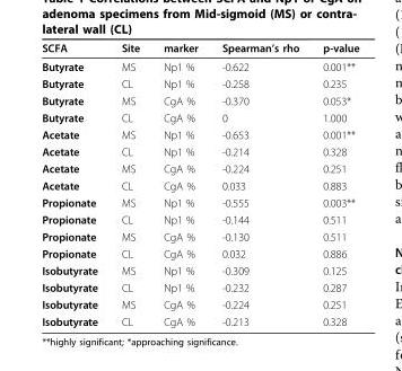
<table><thead><tr><td>SCFA</td><td>Site</td><td>marker</td><td>Spearman’s rho</td><td>p-value</td></tr></thead><tbody><tr><td>Butyrate</td><td>MS</td><td>Np1 %</td><td>-0.622</td><td>0.001**</td></tr><tr><td>Butyrate</td><td>CL</td><td>Np1 %</td><td>-0.258</td><td>0.235</td></tr><tr><td>Butyrate</td><td>MS</td><td>CgA %</td><td>-0.370</td><td>0.053*</td></tr><tr><td>Butyrate</td><td>CL</td><td>CgA %</td><td>0</td><td>1.000</td></tr><tr><td>Acetate</td><td>MS</td><td>Np1 %</td><td>-0.653</td><td>0.001**</td></tr><tr><td>Acetate</td><td>CL</td><td>Np1 %</td><td>-0.214</td><td>0.328</td></tr><tr><td>Acetate</td><td>MS</td><td>CgA %</td><td>-0.224</td><td>0.251</td></tr><tr><td>Acetate</td><td>CL</td><td>CgA %</td><td>0.033</td><td>0.883</td></tr><tr><td>Propionate</td><td>MS</td><td>Np1 %</td><td>-0.555</td><td>0.003**</td></tr><tr><td>Propionate</td><td>CL</td><td>Np1 %</td><td>-0.144</td><td>0.511</td></tr><tr><td>Propionate</td><td>MS</td><td>CgA %</td><td>-0.130</td><td>0.511</td></tr><tr><td>Propionate</td><td>CL</td><td>CgA %</td><td>0.032</td><td>0.886</td></tr><tr><td>Isobutyrate</td><td>MS</td><td>Np1 %</td><td>-0.309</td><td>0.125</td></tr><tr><td>Isobutyrate</td><td>CL</td><td>Np1 %</td><td>-0.232</td><td>0.287</td></tr><tr><td>Isobutyrate</td><td>MS</td><td>CgA %</td><td>-0.224</td><td>0.251</td></tr><tr><td>Isobutyrate</td><td>CL</td><td>CgA %</td><td>-0.213</td><td>0.328</td></tr></tbody></table>